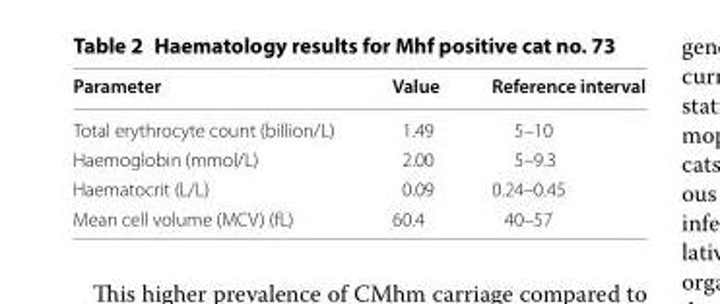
<table><thead><tr><td>Parameter</td><td>Value</td><td>Reference interval</td></tr></thead><tbody><tr><td>Total erythrocyte count (billion/L)</td><td>1.49</td><td>5–10</td></tr><tr><td>Haemoglobin (mmol/L)</td><td>2.00</td><td>5–9.3</td></tr><tr><td>Haematocrit (L/L)</td><td>0.09</td><td>0.24–0.45</td></tr><tr><td>Mean cell volume (MCV) (fL)</td><td>60.4</td><td>40–57</td></tr></tbody></table>